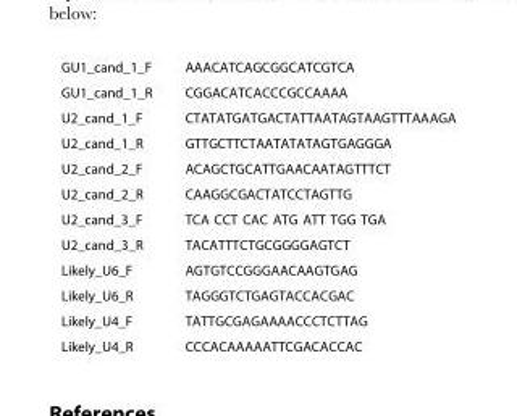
<table><tbody><tr><td>GU1_cand_1_F</td><td>AAACATCAGCGGCATCGTCA</td></tr><tr><td>GU1_cand_1_R</td><td>CGGACATCACCCGCCAAAA</td></tr><tr><td>U2_cand_1_F</td><td>CTATATGATGACTATTAATAGTAAGTTTAAAGA</td></tr><tr><td>U2_cand_1_R</td><td>GTTGCTTCTAATATATAGTGAGGGA</td></tr><tr><td>U2_cand_2_F</td><td>ACAGCTGCATTGAACAATAGTTTCT</td></tr><tr><td>U2_cand_2_R</td><td>CAAGGCGACTATCCTAGTTG</td></tr><tr><td>U2_cand_3_F</td><td>TCA CCT CAC ATG ATT TGG TGA</td></tr><tr><td>U2_cand_3_R</td><td>TACATTTCTGCGGGGAGTCT</td></tr><tr><td>Likely_U6_F</td><td>AGTGTCCGGGAACAAGTGAG</td></tr><tr><td>Likely_U6_R</td><td>TAGGGTCTGAGTACCACGAC</td></tr><tr><td>Likely_U4_F</td><td>TATTGCGAGAAAACCCTCTTAG</td></tr><tr><td>Likely_U4_R</td><td>CCCACAAAAATTCGACACCAC</td></tr></tbody></table>